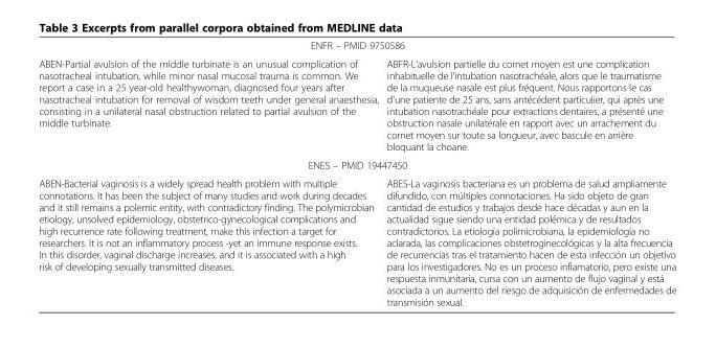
<table><tbody><tr><td colspan="2">ENFR – PMID 9750586</td></tr><tr><td>ABEN-Partial avulsion of the middle turbinate is an unusual complication of nasotracheal intubation, while minor nasal mucosal trauma is common. We report a case in a 25 year-old healthywoman, diagnosed four years after nasotracheal intubation for removal of wisdom teeth under general anaesthesia, consisting in a unilateral nasal obstruction related to partial avulsion of the middle turbinate.</td><td>ABFR-L&#x27;avulsion partielle du cornet moyen est une complication inhabituelle de l&#x27;intubation nasotrachéale, alors que le traumatisme de la muqueuse nasale est plus fréquent. Nous rapportons le cas d&#x27;une patiente de 25 ans, sans antécédent particulier, qui après une intubation nasotrachéale pour extractions dentaires, a présenté une obstruction nasale unilatérale en rapport avec un arrachement du cornet moyen sur toute sa longueur, avec bascule en arrière bloquant la choane.</td></tr><tr><td colspan="2">ENES – PMID 19447450</td></tr><tr><td>ABEN-Bacterial vaginosis is a widely spread health problem with multiple connotations. It has been the subject of many studies and work during decades and it still remains a polemic entity, with contradictory finding. The polymicrobian etiology, unsolved epidemiology, obstetrico-gynecological complications and high recurrence rate following treatment, make this infection a target for researchers. It is not an inflammatory process -yet an immune response exists. In this disorder, vaginal discharge increases, and it is associated with a high risk of developing sexually transmitted diseases.</td><td>ABES-La vaginosis bacteriana es un problema de salud ampliamente difundido, con múltiples connotaciones. Ha sido objeto de gran cantidad de estudios y trabajos desde hace décadas y aun en la actualidad sigue siendo una entidad polémica y de resultados contradictorios. La etiología polimicrobiana, la epidemiología no aclarada, las complicaciones obstetroginecológicas y la alta frecuencia de recurrencias tras el tratamiento hacen de esta infección un objetivo para los investigadores. No es un proceso inflamatorio, pero existe una respuesta inmunitaria, cursa con un aumento de flujo vaginal y está asociada a un aumento del riesgo de adquisición de enfermedades de transmisión sexual.</td></tr></tbody></table>